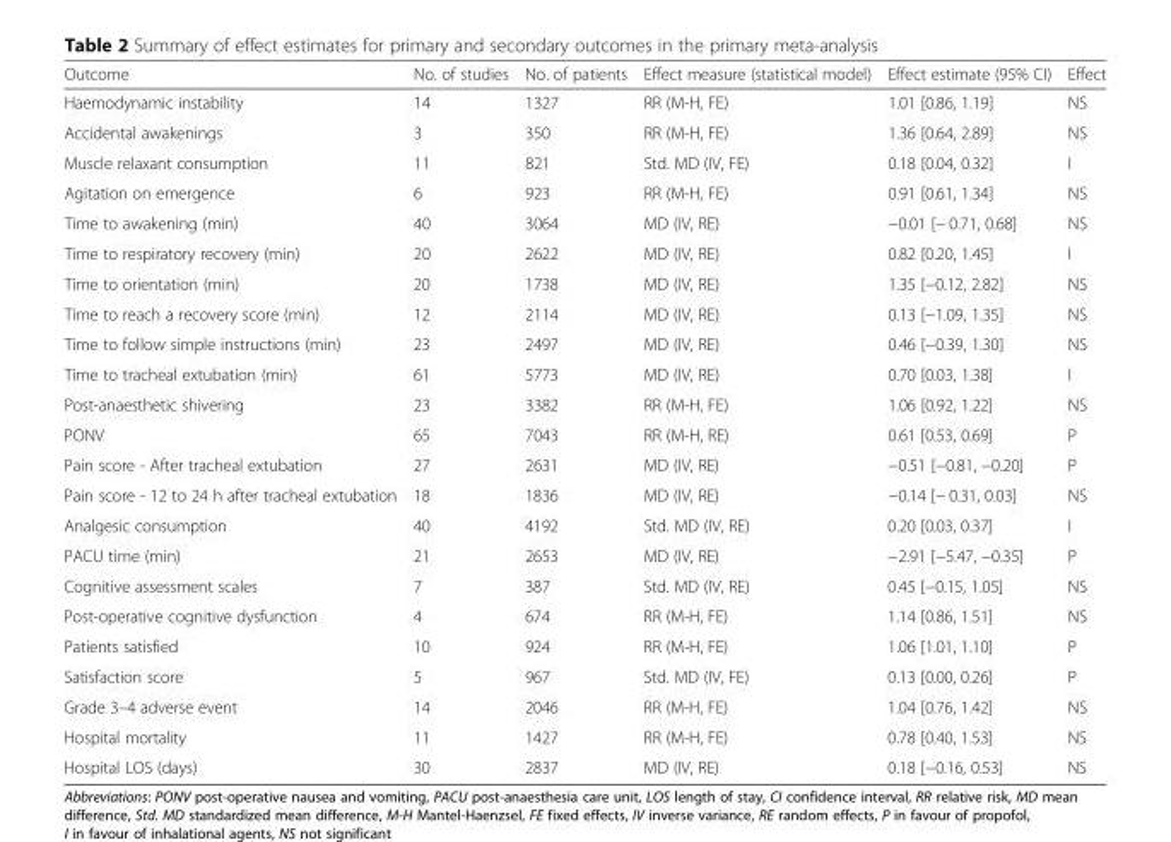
<table><thead><tr><td>Outcome</td><td>No. of studies</td><td>No. of patients</td><td>Effect measure (statistical model)</td><td>Effect estimate (95% CI)</td><td>Effect</td></tr></thead><tbody><tr><td>Haemodynamic instability</td><td>14</td><td>1327</td><td>RR (M-H, FE)</td><td>1.01 [0.86, 1.19]</td><td>NS</td></tr><tr><td>Accidental awakenings</td><td>3</td><td>350</td><td>RR (M-H, FE)</td><td>1.36 [0.64, 2.89]</td><td>NS</td></tr><tr><td>Muscle relaxant consumption</td><td>11</td><td>821</td><td>Std. MD (IV, FE)</td><td>0.18 [0.04, 0.32]</td><td>I</td></tr><tr><td>Agitation on emergence</td><td>6</td><td>923</td><td>RR (M-H, FE)</td><td>0.91 [0.61, 1.34]</td><td>NS</td></tr><tr><td>Time to awakening (min)</td><td>40</td><td>3064</td><td>MD (IV, RE)</td><td>−0.01 [− 0.71, 0.68]</td><td>NS</td></tr><tr><td>Time to respiratory recovery (min)</td><td>20</td><td>2622</td><td>MD (IV, RE)</td><td>0.82 [0.20, 1.45]</td><td>I</td></tr><tr><td>Time to orientation (min)</td><td>20</td><td>1738</td><td>MD (IV, RE)</td><td>1.35 [−0.12, 2.82]</td><td>NS</td></tr><tr><td>Time to reach a recovery score (min)</td><td>12</td><td>2114</td><td>MD (IV, RE)</td><td>0.13 [−1.09, 1.35]</td><td>NS</td></tr><tr><td>Time to follow simple instructions (min)</td><td>23</td><td>2497</td><td>MD (IV, RE)</td><td>0.46 [−0.39, 1.30]</td><td>NS</td></tr><tr><td>Time to tracheal extubation (min)</td><td>61</td><td>5773</td><td>MD (IV, RE)</td><td>0.70 [0.03, 1.38]</td><td>I</td></tr><tr><td>Post-anaesthetic shivering</td><td>23</td><td>3382</td><td>RR (M-H, FE)</td><td>1.06 [0.92, 1.22]</td><td>NS</td></tr><tr><td>PONV</td><td>65</td><td>7043</td><td>RR (M-H, RE)</td><td>0.61 [0.53, 0.69]</td><td>P</td></tr><tr><td>Pain score - After tracheal extubation</td><td>27</td><td>2631</td><td>MD (IV, RE)</td><td>−0.51 [−0.81, −0.20]</td><td>P</td></tr><tr><td>Pain score - 12 to 24 h after tracheal extubation</td><td>18</td><td>1836</td><td>MD (IV, RE)</td><td>−0.14 [− 0.31, 0.03]</td><td>NS</td></tr><tr><td>Analgesic consumption</td><td>40</td><td>4192</td><td>Std. MD (IV, RE)</td><td>0.20 [0.03, 0.37]</td><td>I</td></tr><tr><td>PACU time (min)</td><td>21</td><td>2653</td><td>MD (IV, RE)</td><td>−2.91 [−5.47, −0.35]</td><td>P</td></tr><tr><td>Cognitive assessment scales</td><td>7</td><td>387</td><td>Std. MD (IV, RE)</td><td>0.45 [−0.15, 1.05]</td><td>NS</td></tr><tr><td>Post-operative cognitive dysfunction</td><td>4</td><td>674</td><td>RR (M-H, FE)</td><td>1.14 [0.86, 1.51]</td><td>NS</td></tr><tr><td>Patients satisfied</td><td>10</td><td>924</td><td>RR (M-H, FE)</td><td>1.06 [1.01, 1.10]</td><td>P</td></tr><tr><td>Satisfaction score</td><td>5</td><td>967</td><td>Std. MD (IV, FE)</td><td>0.13 [0.00, 0.26]</td><td>P</td></tr><tr><td>Grade 3–4 adverse event</td><td>14</td><td>2046</td><td>RR (M-H, FE)</td><td>1.04 [0.76, 1.42]</td><td>NS</td></tr><tr><td>Hospital mortality</td><td>11</td><td>1427</td><td>RR (M-H, FE)</td><td>0.78 [0.40, 1.53]</td><td>NS</td></tr><tr><td>Hospital LOS (days)</td><td>30</td><td>2837</td><td>MD (IV, RE)</td><td>0.18 [−0.16, 0.53]</td><td>NS</td></tr></tbody></table>